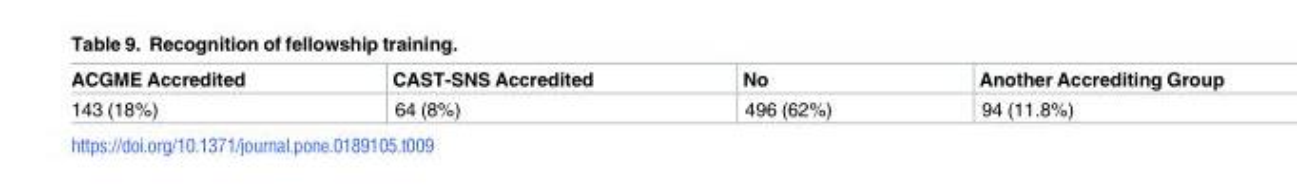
<table><thead><tr><td>ACGME Accredited</td><td>CAST-SNS Accredited</td><td>No</td><td>Another Accrediting Group</td></tr></thead><tbody><tr><td>143 (18%)</td><td>64 (8%)</td><td>496 (62%)</td><td>94 (11.8%)</td></tr></tbody></table>